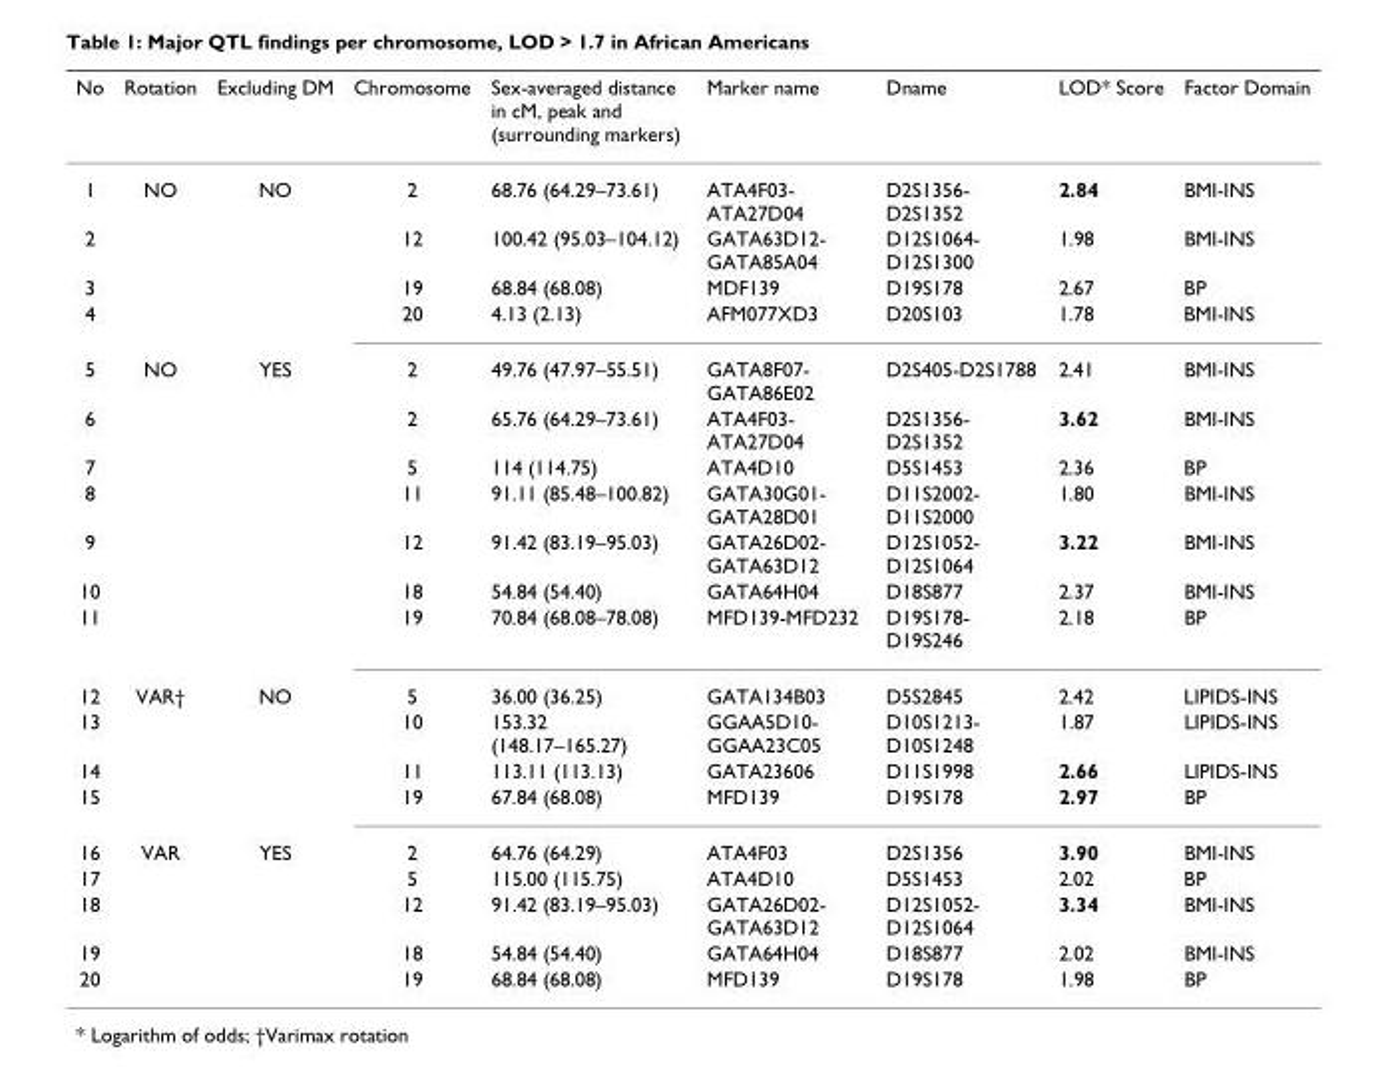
<table><thead><tr><td>No</td><td>Rotation</td><td>Excluding DM</td><td>Chromosome</td><td>Sex-averaged distance in cM, peak and (surrounding markers)</td><td>Marker name</td><td>Dname</td><td>LOD* Score</td><td>Factor Domain</td></tr></thead><tbody><tr><td>1</td><td>NO</td><td>NO</td><td>2</td><td>68.76 (64.29–73.61)</td><td>ATA4F03- ATA27D04</td><td>D2S1356- D2S1352</td><td>2.84</td><td>BMI-INS</td></tr><tr><td>2</td><td></td><td></td><td>12</td><td>100.42 (95.03–104.12)</td><td>GATA63D12- GATA85A04</td><td>D12S1064- D12S1300</td><td>1.98</td><td>BMI-INS</td></tr><tr><td>3</td><td></td><td></td><td>19</td><td>68.84 (68.08)</td><td>MDF139</td><td>D19S178</td><td>2.67</td><td>BP</td></tr><tr><td>4</td><td></td><td></td><td>20</td><td>4.13 (2.13)</td><td>AFM077XD3</td><td>D20S103</td><td>1.78</td><td>BMI-INS</td></tr><tr><td>5</td><td>NO</td><td>YES</td><td>2</td><td>49.76 (47.97–55.51)</td><td>GATA8F07- GATA86E02</td><td>D2S405-D2S1788</td><td>2.41</td><td>BMI-INS</td></tr><tr><td>6</td><td></td><td></td><td>2</td><td>65.76 (64.29–73.61)</td><td>ATA4F03- ATA27D04</td><td>D2S1356- D2S1352</td><td>3.62</td><td>BMI-INS</td></tr><tr><td>7</td><td></td><td></td><td>5</td><td>114 (114.75)</td><td>ATA4D10</td><td>D5S1453</td><td>2.36</td><td>BP</td></tr><tr><td>8</td><td></td><td></td><td>11</td><td>91.11 (85.48–100.82)</td><td>GATA30G01- GATA28D01</td><td>D11S2002- D11S2000</td><td>1.80</td><td>BMI-INS</td></tr><tr><td>9</td><td></td><td></td><td>12</td><td>91.42 (83.19–95.03)</td><td>GATA26D02- GATA63D12</td><td>D12S1052- D12S1064</td><td>3.22</td><td>BMI-INS</td></tr><tr><td>10</td><td></td><td></td><td>18</td><td>54.84 (54.40)</td><td>GATA64H04</td><td>D18S877</td><td>2.37</td><td>BMI-INS</td></tr><tr><td>11</td><td></td><td></td><td>19</td><td>70.84 (68.08–78.08)</td><td>MFD139-MFD232</td><td>D19S178- D19S246</td><td>2.18</td><td>BP</td></tr><tr><td>12</td><td>VAR†</td><td>NO</td><td>5</td><td>36.00 (36.25)</td><td>GATA134B03</td><td>D5S2845</td><td>2.42</td><td>LIPIDS-INS</td></tr><tr><td>13</td><td></td><td></td><td>10</td><td>153.32 (148.17–165.27)</td><td>GGAA5D10- GGAA23C05</td><td>D10S1213- D10S1248</td><td>1.87</td><td>LIPIDS-INS</td></tr><tr><td>14</td><td></td><td></td><td>11</td><td>113.11 (113.13)</td><td>GATA23606</td><td>D11S1998</td><td>2.66</td><td>LIPIDS-INS</td></tr><tr><td>15</td><td></td><td></td><td>19</td><td>67.84 (68.08)</td><td>MFD139</td><td>D19S178</td><td>2.97</td><td>BP</td></tr><tr><td>16</td><td>VAR</td><td>YES</td><td>2</td><td>64.76 (64.29)</td><td>ATA4F03</td><td>D2S1356</td><td>3.90</td><td>BMI-INS</td></tr><tr><td>17</td><td></td><td></td><td>5</td><td>115.00 (115.75)</td><td>ATA4D10</td><td>D5S1453</td><td>2.02</td><td>BP</td></tr><tr><td>18</td><td></td><td></td><td>12</td><td>91.42 (83.19–95.03)</td><td>GATA26D02- GATA63D12</td><td>D12S1052- D12S1064</td><td>3.34</td><td>BMI-INS</td></tr><tr><td>19</td><td></td><td></td><td>18</td><td>54.84 (54.40)</td><td>GATA64H04</td><td>D18S877</td><td>2.02</td><td>BMI-INS</td></tr><tr><td>20</td><td></td><td></td><td>19</td><td>68.84 (68.08)</td><td>MFD139</td><td>D19S178</td><td>1.98</td><td>BP</td></tr></tbody></table>